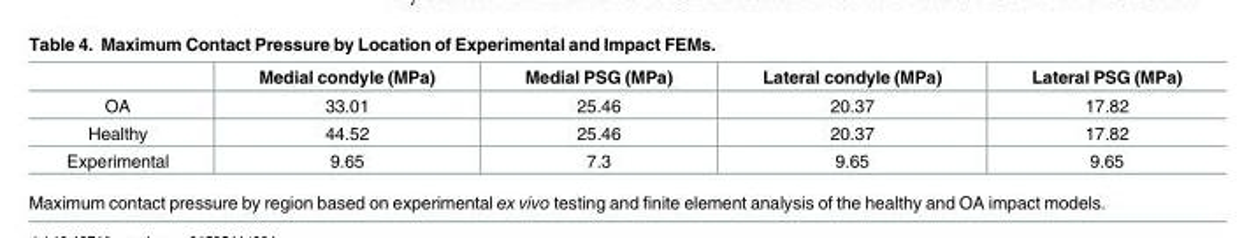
<table><thead><tr><td></td><td>Medial condyle (MPa)</td><td>Medial PSG (MPa)</td><td>Lateral condyle (MPa)</td><td>Lateral PSG (MPa)</td></tr></thead><tbody><tr><td>OA</td><td>33.01</td><td>25.46</td><td>20.37</td><td>17.82</td></tr><tr><td>Healthy</td><td>44.52</td><td>25.46</td><td>20.37</td><td>17.82</td></tr><tr><td>Experimental</td><td>9.65</td><td>7.3</td><td>9.65</td><td>9.65</td></tr></tbody></table>